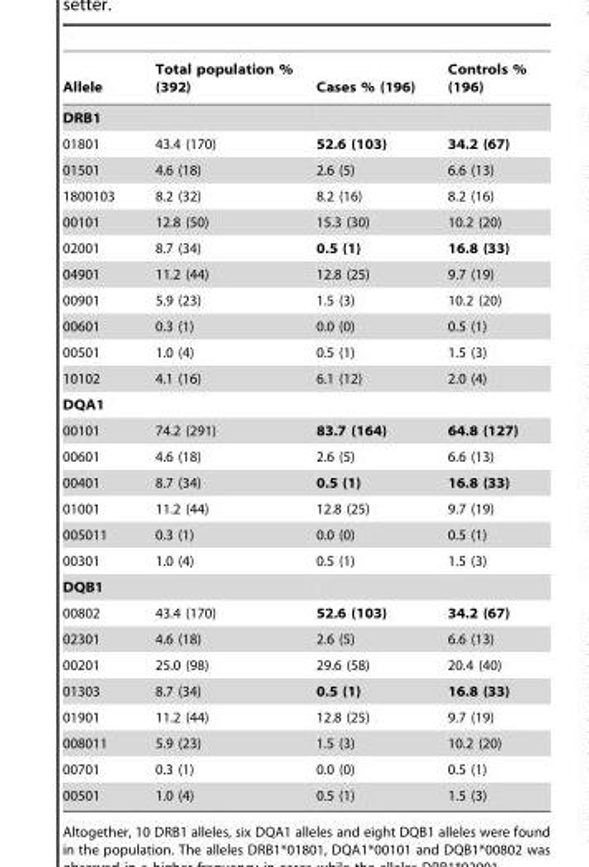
<table><thead><tr><td>Allele</td><td>Total population % (392)</td><td>Cases % (196)</td><td>Controls % (196)</td></tr></thead><tbody><tr><td colspan="4">DRB1</td></tr><tr><td>01801</td><td>43.4 (170)</td><td>52.6 (103)</td><td>34.2 (67)</td></tr><tr><td>01501</td><td>4.6 (18)</td><td>2.6 (5)</td><td>6.6 (13)</td></tr><tr><td>1800103</td><td>8.2 (32)</td><td>8.2 (16)</td><td>8.2 (16)</td></tr><tr><td>00101</td><td>12.8 (50)</td><td>15.3 (30)</td><td>10.2 (20)</td></tr><tr><td>02001</td><td>8.7 (34)</td><td>0.5 (1)</td><td>16.8 (33)</td></tr><tr><td>04901</td><td>11.2 (44)</td><td>12.8 (25)</td><td>9.7 (19)</td></tr><tr><td>00901</td><td>5.9 (23)</td><td>1.5 (3)</td><td>10.2 (20)</td></tr><tr><td>00601</td><td>0.3 (1)</td><td>0.0 (0)</td><td>0.5 (1)</td></tr><tr><td>00501</td><td>1.0 (4)</td><td>0.5 (1)</td><td>1.5 (3)</td></tr><tr><td>10102</td><td>4.1 (16)</td><td>6.1 (12)</td><td>2.0 (4)</td></tr><tr><td colspan="4">DQA1</td></tr><tr><td>00101</td><td>74.2 (291)</td><td>83.7 (164)</td><td>64.8 (127)</td></tr><tr><td>00601</td><td>4.6 (18)</td><td>2.6 (5)</td><td>6.6 (13)</td></tr><tr><td>00401</td><td>8.7 (34)</td><td>0.5 (1)</td><td>16.8 (33)</td></tr><tr><td>01001</td><td>11.2 (44)</td><td>12.8 (25)</td><td>9.7 (19)</td></tr><tr><td>005011</td><td>0.3 (1)</td><td>0.0 (0)</td><td>0.5 (1)</td></tr><tr><td>00301</td><td>1.0 (4)</td><td>0.5 (1)</td><td>1.5 (3)</td></tr><tr><td colspan="4">DQB1</td></tr><tr><td>00802</td><td>43.4 (170)</td><td>52.6 (103)</td><td>34.2 (67)</td></tr><tr><td>02301</td><td>4.6 (18)</td><td>2.6 (5)</td><td>6.6 (13)</td></tr><tr><td>00201</td><td>25.0 (98)</td><td>29.6 (58)</td><td>20.4 (40)</td></tr><tr><td>01303</td><td>8.7 (34)</td><td>0.5 (1)</td><td>16.8 (33)</td></tr><tr><td>01901</td><td>11.2 (44)</td><td>12.8 (25)</td><td>9.7 (19)</td></tr><tr><td>008011</td><td>5.9 (23)</td><td>1.5 (3)</td><td>10.2 (20)</td></tr><tr><td>00701</td><td>0.3 (1)</td><td>0.0 (0)</td><td>0.5 (1)</td></tr><tr><td>00501</td><td>1.0 (4)</td><td>0.5 (1)</td><td>1.5 (3)</td></tr></tbody></table>